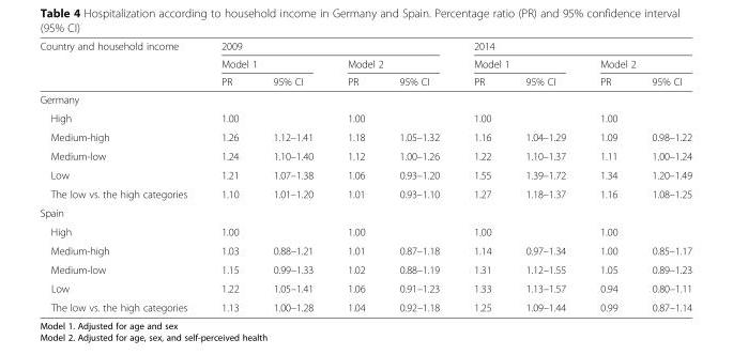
<table><thead><tr><td rowspan="3">Country and household income</td><td colspan="4">2009</td><td colspan="4">2014</td></tr><tr><td colspan="2">Model 1</td><td colspan="2">Model 2</td><td colspan="2">Model 1</td><td colspan="2">Model 2</td></tr><tr><td>PR</td><td>95% CI</td><td>PR</td><td>95% CI</td><td>PR</td><td>95% CI</td><td>PR</td><td>95% CI</td></tr></thead><tbody><tr><td colspan="9">Germany</td></tr><tr><td>High</td><td>1.00</td><td></td><td>1.00</td><td></td><td>1.00</td><td></td><td>1.00</td><td></td></tr><tr><td>Medium-high</td><td>1.26</td><td>1.12–1.41</td><td>1.18</td><td>1.05–1.32</td><td>1.16</td><td>1.04–1.29</td><td>1.09</td><td>0.98–1.22</td></tr><tr><td>Medium-low</td><td>1.24</td><td>1.10–1.40</td><td>1.12</td><td>1.00–1.26</td><td>1.22</td><td>1.10–1.37</td><td>1.11</td><td>1.00–1.24</td></tr><tr><td>Low</td><td>1.21</td><td>1.07–1.38</td><td>1.06</td><td>0.93–1.20</td><td>1.55</td><td>1.39–1.72</td><td>1.34</td><td>1.20–1.49</td></tr><tr><td>The low vs. the high categories</td><td>1.10</td><td>1.01–1.20</td><td>1.01</td><td>0.93–1.10</td><td>1.27</td><td>1.18–1.37</td><td>1.16</td><td>1.08–1.25</td></tr><tr><td colspan="9">Spain</td></tr><tr><td>High</td><td>1.00</td><td></td><td>1.00</td><td></td><td>1.00</td><td></td><td>1.00</td><td></td></tr><tr><td>Medium-high</td><td>1.03</td><td>0.88–1.21</td><td>1.01</td><td>0.87–1.18</td><td>1.14</td><td>0.97–1.34</td><td>1.00</td><td>0.85–1.17</td></tr><tr><td>Medium-low</td><td>1.15</td><td>0.99–1.33</td><td>1.02</td><td>0.88–1.19</td><td>1.31</td><td>1.12–1.55</td><td>1.05</td><td>0.89–1.23</td></tr><tr><td>Low</td><td>1.22</td><td>1.05–1.41</td><td>1.06</td><td>0.91–1.23</td><td>1.33</td><td>1.13–1.57</td><td>0.94</td><td>0.80–1.11</td></tr><tr><td>The low vs. the high categories</td><td>1.13</td><td>1.00–1.28</td><td>1.04</td><td>0.92–1.18</td><td>1.25</td><td>1.09–1.44</td><td>0.99</td><td>0.87–1.14</td></tr></tbody></table>